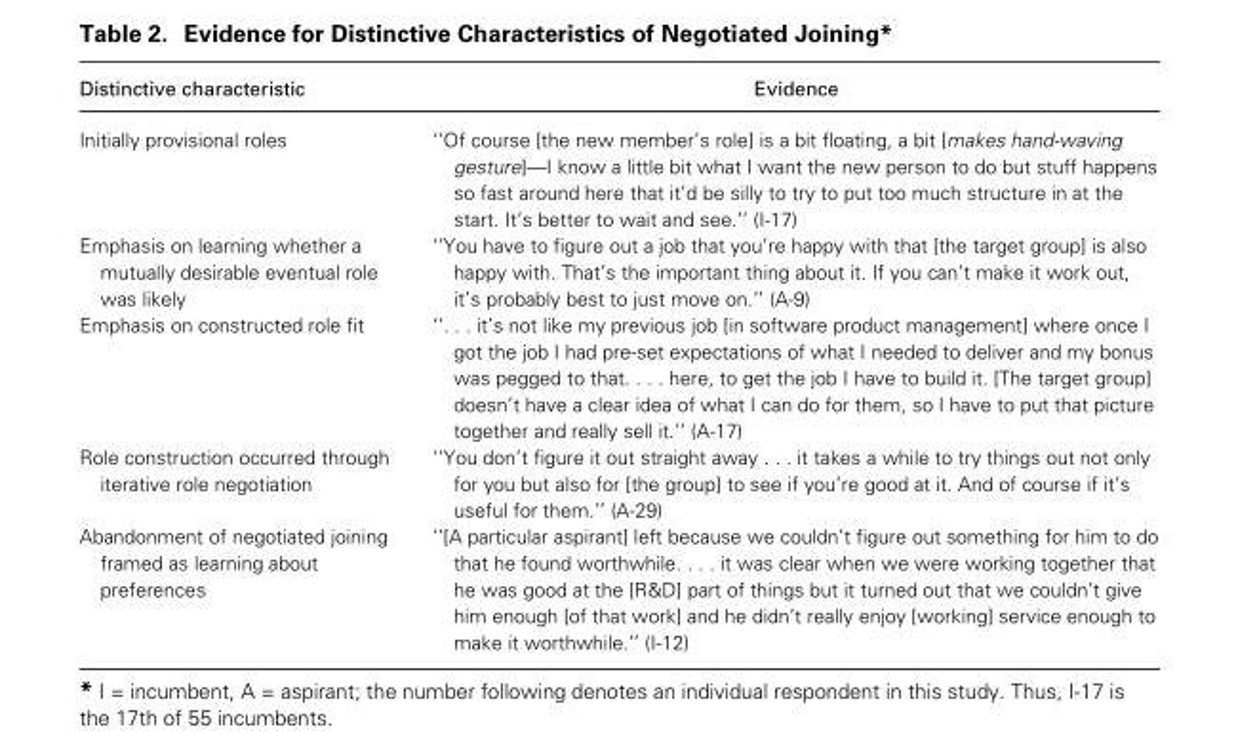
<table><thead><tr><td>Distinctive characteristic</td><td>Evidence</td></tr></thead><tbody><tr><td>Initially provisional roles</td><td>‘‘Of course [the new member’s role] is a bit floating, a bit [makes hand-waving gesture]—I know a little bit what I want the new person to do but stuff happens so fast around here that it’d be silly to try to put too much structure in at the start. It’s better to wait and see.’’ (I-17)</td></tr><tr><td>Emphasis on learning whether a mutually desirable eventual role was likely</td><td>‘‘You have to figure out a job that you’re happy with that [the target group] is also happy with. That’s the important thing about it. If you can’t make it work out, it’s probably best to just move on.’’ (A-9)</td></tr><tr><td>Emphasis on constructed role fit</td><td>‘‘. . . it’s not like my previous job [in software product management] where once I got the job I had pre-set expectations of what I needed to deliver and my bonus was pegged to that. . . . here, to get the job I have to build it. [The target group] doesn’t have a clear idea of what I can do for them, so I have to put that picture together and really sell it.’’ (A-17)</td></tr><tr><td>Role construction occurred through iterative role negotiation</td><td>‘‘You don’t figure it out straight away . . . it takes a while to try things out not only for you but also for [the group] to see if you’re good at it. And of course if it’s useful for them.’’ (A-29)</td></tr><tr><td>Abandonment of negotiated joining framed as learning about preferences</td><td>‘‘[A particular aspirant] left because we couldn’t figure out something for him to do that he found worthwhile. . . . it was clear when we were working together that he was good at the [R&amp;D] part of things but it turned out that we couldn’t give him enough [of that work] and he didn’t really enjoy [working] service enough to make it worthwhile.’’ (I-12)</td></tr></tbody></table>